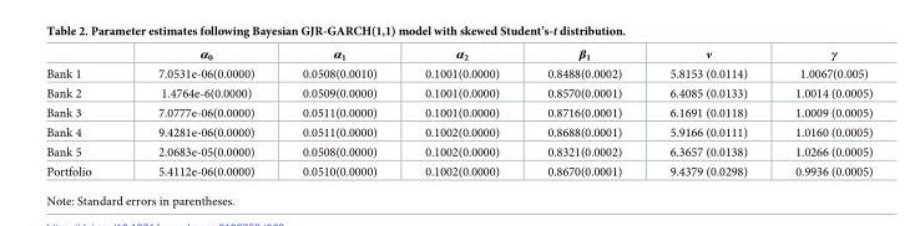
<table><thead><tr><td></td><td>α<sub>0</sub></td><td>α<sub>1</sub></td><td>α<sub>2</sub></td><td>β<sub>1</sub></td><td>ν</td><td>γ</td></tr></thead><tbody><tr><td>Bank 1</td><td>7.0531e-06(0.0000)</td><td>0.0508(0.0010)</td><td>0.1001(0.0000)</td><td>0.8488(0.0002)</td><td>5.8153 (0.0114)</td><td>1.0067(0.005)</td></tr><tr><td>Bank 2</td><td>1.4764e-6(0.0000)</td><td>0.0509(0.0000)</td><td>0.1001(0.0000)</td><td>0.8570(0.0001)</td><td>6.4085 (0.0133)</td><td>1.0014 (0.0005)</td></tr><tr><td>Bank 3</td><td>7.0777e-06(0.0000)</td><td>0.0511(0.0000)</td><td>0.1001(0.0000)</td><td>0.8716(0.0001)</td><td>6.1691 (0.0118)</td><td>1.0009 (0.0005)</td></tr><tr><td>Bank 4</td><td>9.4281e-06(0.0000)</td><td>0.0511(0.0000)</td><td>0.1002(0.0000)</td><td>0.8688(0.0001)</td><td>5.9166 (0.0111)</td><td>1.0160 (0.0005)</td></tr><tr><td>Bank 5</td><td>2.0683e-05(0.0000)</td><td>0.0508(0.0000)</td><td>0.1002(0.0000)</td><td>0.8321(0.0002)</td><td>6.3657 (0.0138)</td><td>1.0266 (0.0005)</td></tr><tr><td>Portfolio</td><td>5.4112e-06(0.0000)</td><td>0.0510(0.0000)</td><td>0.1002(0.0000)</td><td>0.8670(0.0001)</td><td>9.4379 (0.0298)</td><td>0.9936 (0.0005)</td></tr></tbody></table>